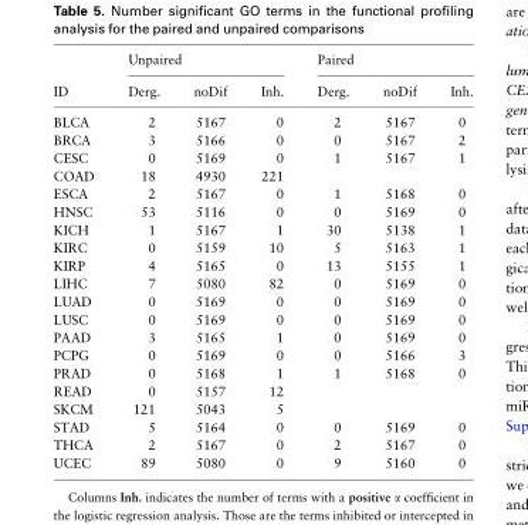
<table><thead><tr><td rowspan="2">ID</td><td colspan="3">Unpaired</td><td colspan="3">Paired</td></tr><tr><td>Derg.</td><td>noDif</td><td>Inh.</td><td>Derg.</td><td>noDif</td><td>Inh.</td></tr></thead><tbody><tr><td>BLCA</td><td>2</td><td>5167</td><td>0</td><td>2</td><td>5167</td><td>0</td></tr><tr><td>BRCA</td><td>3</td><td>5166</td><td>0</td><td>0</td><td>5167</td><td>2</td></tr><tr><td>CESC</td><td>0</td><td>5169</td><td>0</td><td>1</td><td>5167</td><td>1</td></tr><tr><td>COAD</td><td>18</td><td>4930</td><td>221</td><td></td><td></td><td></td></tr><tr><td>ESCA</td><td>2</td><td>5167</td><td>0</td><td>1</td><td>5168</td><td>0</td></tr><tr><td>HNSC</td><td>53</td><td>5116</td><td>0</td><td>0</td><td>5169</td><td>0</td></tr><tr><td>KICH</td><td>1</td><td>5167</td><td>1</td><td>30</td><td>5138</td><td>1</td></tr><tr><td>KIRC</td><td>0</td><td>5159</td><td>10</td><td>5</td><td>5163</td><td>1</td></tr><tr><td>KIRP</td><td>4</td><td>5165</td><td>0</td><td>13</td><td>5155</td><td>1</td></tr><tr><td>LIHC</td><td>7</td><td>5080</td><td>82</td><td>0</td><td>5169</td><td>0</td></tr><tr><td>LUAD</td><td>0</td><td>5169</td><td>0</td><td>0</td><td>5169</td><td>0</td></tr><tr><td>LUSC</td><td>0</td><td>5169</td><td>0</td><td>0</td><td>5169</td><td>0</td></tr><tr><td>PAAD</td><td>3</td><td>5165</td><td>1</td><td>0</td><td>5169</td><td>0</td></tr><tr><td>PCPG</td><td>0</td><td>5169</td><td>0</td><td>0</td><td>5166</td><td>3</td></tr><tr><td>PRAD</td><td>0</td><td>5168</td><td>1</td><td>1</td><td>5168</td><td>0</td></tr><tr><td>READ</td><td>0</td><td>5157</td><td>12</td><td></td><td></td><td></td></tr><tr><td>SKCM</td><td>121</td><td>5043</td><td>5</td><td></td><td></td><td></td></tr><tr><td>STAD</td><td>5</td><td>5164</td><td>0</td><td>0</td><td>5169</td><td>0</td></tr><tr><td>THCA</td><td>2</td><td>5167</td><td>0</td><td>2</td><td>5167</td><td>0</td></tr><tr><td>UCEC</td><td>89</td><td>5080</td><td>0</td><td>9</td><td>5160</td><td>0</td></tr></tbody></table>